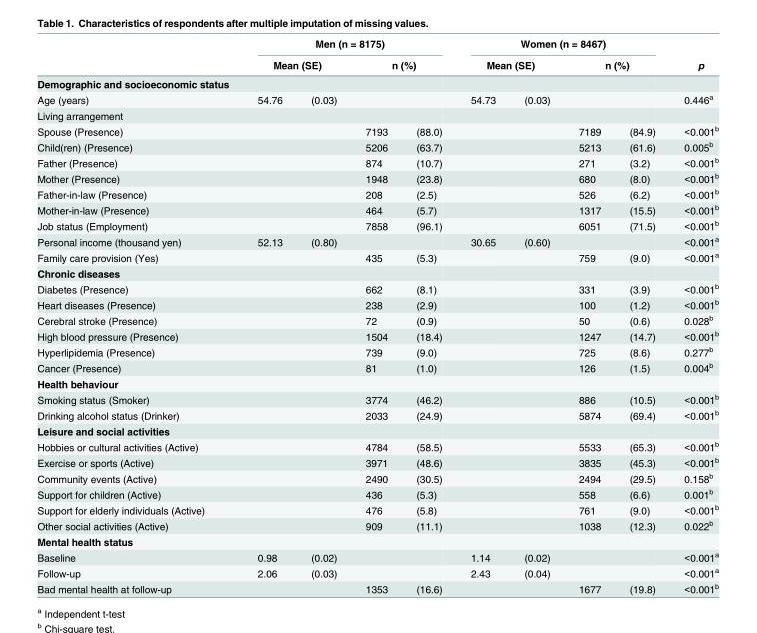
<table><thead><tr><td rowspan="3">Demographic and socioeconomic status</td><td colspan="4">Men (n = 8175)</td><td colspan="4">Women (n = 8467)</td><td rowspan="3">p</td></tr><tr><td colspan="2">Mean (SE)</td><td colspan="2">n (%)</td><td colspan="2">Mean (SE)</td><td colspan="2">n (%)</td></tr><tr><td></td><td></td><td></td><td></td><td></td><td></td><td></td><td></td></tr></thead><tbody><tr><td>Age (years)</td><td>54.76</td><td>(0.03)</td><td></td><td></td><td>54.73</td><td>(0.03)</td><td></td><td></td><td>0.446<sup>a</sup></td></tr><tr><td colspan="10">Living arrangement</td></tr><tr><td>Spouse (Presence)</td><td></td><td></td><td>7193</td><td>(88.0)</td><td></td><td></td><td>7189</td><td>(84.9)</td><td>&lt;0.001<sup>b</sup></td></tr><tr><td>Child(ren) (Presence)</td><td></td><td></td><td>5206</td><td>(63.7)</td><td></td><td></td><td>5213</td><td>(61.6)</td><td>0.005<sup>b</sup></td></tr><tr><td>Father (Presence)</td><td></td><td></td><td>874</td><td>(10.7)</td><td></td><td></td><td>271</td><td>(3.2)</td><td>&lt;0.001<sup>b</sup></td></tr><tr><td>Mother (Presence)</td><td></td><td></td><td>1948</td><td>(23.8)</td><td></td><td></td><td>680</td><td>(8.0)</td><td>&lt;0.001<sup>b</sup></td></tr><tr><td>Father-in-law (Presence)</td><td></td><td></td><td>208</td><td>(2.5)</td><td></td><td></td><td>526</td><td>(6.2)</td><td>&lt;0.001<sup>b</sup></td></tr><tr><td>Mother-in-law (Presence)</td><td></td><td></td><td>464</td><td>(5.7)</td><td></td><td></td><td>1317</td><td>(15.5)</td><td>&lt;0.001<sup>b</sup></td></tr><tr><td>Job status (Employment)</td><td></td><td></td><td>7858</td><td>(96.1)</td><td></td><td></td><td>6051</td><td>(71.5)</td><td>&lt;0.001<sup>b</sup></td></tr><tr><td>Personal income (thousand yen)</td><td>52.13</td><td>(0.80)</td><td></td><td></td><td>30.65</td><td>(0.60)</td><td></td><td></td><td>&lt;0.001<sup>a</sup></td></tr><tr><td>Family care provision (Yes)</td><td></td><td></td><td>435</td><td>(5.3)</td><td></td><td></td><td>759</td><td>(9.0)</td><td>&lt;0.001<sup>a</sup></td></tr><tr><td colspan="10">Chronic diseases</td></tr><tr><td>Diabetes (Presence)</td><td></td><td></td><td>662</td><td>(8.1)</td><td></td><td></td><td>331</td><td>(3.9)</td><td>&lt;0.001<sup>b</sup></td></tr><tr><td>Heart diseases (Presence)</td><td></td><td></td><td>238</td><td>(2.9)</td><td></td><td></td><td>100</td><td>(1.2)</td><td>&lt;0.001<sup>b</sup></td></tr><tr><td>Cerebral stroke (Presence)</td><td></td><td></td><td>72</td><td>(0.9)</td><td></td><td></td><td>50</td><td>(0.6)</td><td>0.028<sup>b</sup></td></tr><tr><td>High blood pressure (Presence)</td><td></td><td></td><td>1504</td><td>(18.4)</td><td></td><td></td><td>1247</td><td>(14.7)</td><td>&lt;0.001<sup>b</sup></td></tr><tr><td>Hyperlipidemia (Presence)</td><td></td><td></td><td>739</td><td>(9.0)</td><td></td><td></td><td>725</td><td>(8.6)</td><td>0.277<sup>b</sup></td></tr><tr><td>Cancer (Presence)</td><td></td><td></td><td>81</td><td>(1.0)</td><td></td><td></td><td>126</td><td>(1.5)</td><td>0.004<sup>b</sup></td></tr><tr><td colspan="10">Health behaviour</td></tr><tr><td>Smoking status (Smoker)</td><td></td><td></td><td>3774</td><td>(46.2)</td><td></td><td></td><td>886</td><td>(10.5)</td><td>&lt;0.001<sup>b</sup></td></tr><tr><td>Drinking alcohol status (Drinker)</td><td></td><td></td><td>2033</td><td>(24.9)</td><td></td><td></td><td>5874</td><td>(69.4)</td><td>&lt;0.001<sup>b</sup></td></tr><tr><td colspan="10">Leisure and social activities</td></tr><tr><td>Hobbies or cultural activities (Active)</td><td></td><td></td><td>4784</td><td>(58.5)</td><td></td><td></td><td>5533</td><td>(65.3)</td><td>&lt;0.001<sup>b</sup></td></tr><tr><td>Exercise or sports (Active)</td><td></td><td></td><td>3971</td><td>(48.6)</td><td></td><td></td><td>3835</td><td>(45.3)</td><td>&lt;0.001<sup>b</sup></td></tr><tr><td>Community events (Active)</td><td></td><td></td><td>2490</td><td>(30.5)</td><td></td><td></td><td>2494</td><td>(29.5)</td><td>0.158<sup>b</sup></td></tr><tr><td>Support for children (Active)</td><td></td><td></td><td>436</td><td>(5.3)</td><td></td><td></td><td>558</td><td>(6.6)</td><td>0.001<sup>b</sup></td></tr><tr><td>Support for elderly individuals (Active)</td><td></td><td></td><td>476</td><td>(5.8)</td><td></td><td></td><td>761</td><td>(9.0)</td><td>&lt;0.001<sup>b</sup></td></tr><tr><td>Other social activities (Active)</td><td></td><td></td><td>909</td><td>(11.1)</td><td></td><td></td><td>1038</td><td>(12.3)</td><td>0.022<sup>b</sup></td></tr><tr><td colspan="10">Mental health status</td></tr><tr><td>Baseline</td><td>0.98</td><td>(0.02)</td><td></td><td></td><td>1.14</td><td>(0.02)</td><td></td><td></td><td>&lt;0.001<sup>a</sup></td></tr><tr><td>Follow-up</td><td>2.06</td><td>(0.03)</td><td></td><td></td><td>2.43</td><td>(0.04)</td><td></td><td></td><td>&lt;0.001<sup>a</sup></td></tr><tr><td>Bad mental health at follow-up</td><td></td><td></td><td>1353</td><td>(16.6)</td><td></td><td></td><td>1677</td><td>(19.8)</td><td>&lt;0.001<sup>b</sup></td></tr></tbody></table>